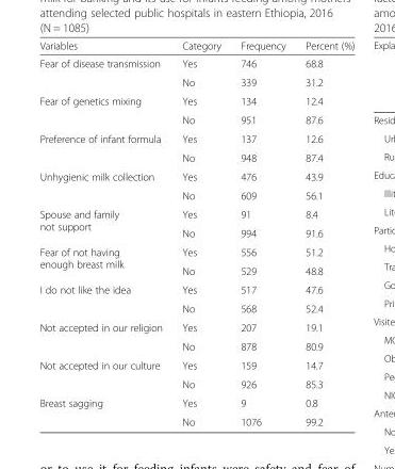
<table><thead><tr><td>Variables</td><td>Category</td><td>Frequency</td><td>Percent (%)</td></tr></thead><tbody><tr><td rowspan="2">Fear of disease transmission</td><td>Yes</td><td>746</td><td>68.8</td></tr><tr><td>No</td><td>339</td><td>31.2</td></tr><tr><td rowspan="2">Fear of genetics mixing</td><td>Yes</td><td>134</td><td>12.4</td></tr><tr><td>No</td><td>951</td><td>87.6</td></tr><tr><td rowspan="2">Preference of infant formula</td><td>Yes</td><td>137</td><td>12.6</td></tr><tr><td>No</td><td>948</td><td>87.4</td></tr><tr><td rowspan="2">Unhygienic milk collection</td><td>Yes</td><td>476</td><td>43.9</td></tr><tr><td>No</td><td>609</td><td>56.1</td></tr><tr><td rowspan="2">Spouse and family not support</td><td>Yes</td><td>91</td><td>8.4</td></tr><tr><td>No</td><td>994</td><td>91.6</td></tr><tr><td rowspan="2">Fear of not having enough breast milk</td><td>Yes</td><td>556</td><td>51.2</td></tr><tr><td>No</td><td>529</td><td>48.8</td></tr><tr><td rowspan="2">I do not like the idea</td><td>Yes</td><td>517</td><td>47.6</td></tr><tr><td>No</td><td>568</td><td>52.4</td></tr><tr><td rowspan="2">Not accepted in our religion</td><td>Yes</td><td>207</td><td>19.1</td></tr><tr><td>No</td><td>878</td><td>80.9</td></tr><tr><td rowspan="2">Not accepted in our culture</td><td>Yes</td><td>159</td><td>14.7</td></tr><tr><td>No</td><td>926</td><td>85.3</td></tr><tr><td rowspan="2">Breast sagging</td><td>Yes</td><td>9</td><td>0.8</td></tr><tr><td>No</td><td>1076</td><td>99.2</td></tr></tbody></table>